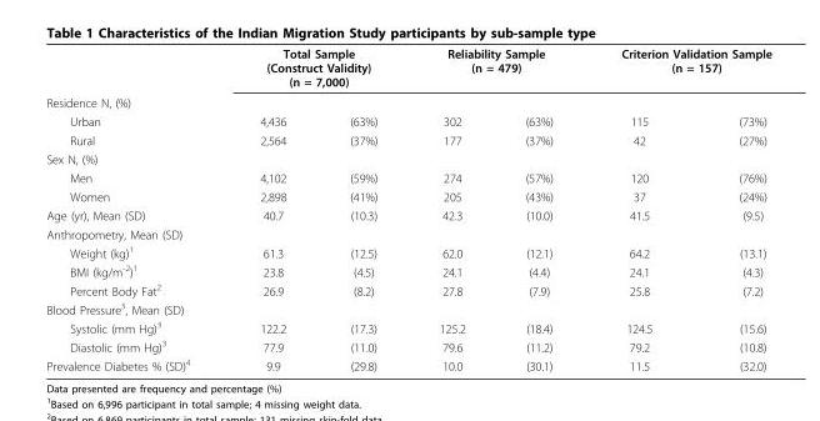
<table><thead><tr><td rowspan="2">Residence N, (%)</td><td colspan="2">Total Sample (Construct Validity) (n = 7,000)</td><td colspan="2">Reliability Sample (n = 479)</td><td colspan="2">Criterion Validation Sample (n = 157)</td></tr><tr><td></td><td></td><td></td><td></td><td></td><td></td></tr></thead><tbody><tr><td>Urban</td><td>4,436</td><td>(63%)</td><td>302</td><td>(63%)</td><td>115</td><td>(73%)</td></tr><tr><td>Rural</td><td>2,564</td><td>(37%)</td><td>177</td><td>(37%)</td><td>42</td><td>(27%)</td></tr><tr><td colspan="7">Sex N, (%)</td></tr><tr><td>Men</td><td>4,102</td><td>(59%)</td><td>274</td><td>(57%)</td><td>120</td><td>(76%)</td></tr><tr><td>Women</td><td>2,898</td><td>(41%)</td><td>205</td><td>(43%)</td><td>37</td><td>(24%)</td></tr><tr><td>Age (yr), Mean (SD)</td><td>40.7</td><td>(10.3)</td><td>42.3</td><td>(10.0)</td><td>41.5</td><td>(9.5)</td></tr><tr><td colspan="7">Anthropometry, Mean (SD)</td></tr><tr><td>Weight (kg)<sup>1</sup></td><td>61.3</td><td>(12.5)</td><td>62.0</td><td>(12.1)</td><td>64.2</td><td>(13.1)</td></tr><tr><td>BMI (kg/m<sup>-2</sup>)<sup>1</sup></td><td>23.8</td><td>(4.5)</td><td>24.1</td><td>(4.4)</td><td>24.1</td><td>(4.3)</td></tr><tr><td>Percent Body Fat<sup>2</sup></td><td>26.9</td><td>(8.2)</td><td>27.8</td><td>(7.9)</td><td>25.8</td><td>(7.2)</td></tr><tr><td colspan="7">Blood Pressure<sup>3</sup>, Mean (SD)</td></tr><tr><td>Systolic (mm Hg)<sup>3</sup></td><td>122.2</td><td>(17.3)</td><td>125.2</td><td>(18.4)</td><td>124.5</td><td>(15.6)</td></tr><tr><td>Diastolic (mm Hg)<sup>3</sup></td><td>77.9</td><td>(11.0)</td><td>79.6</td><td>(11.2)</td><td>79.2</td><td>(10.8)</td></tr><tr><td>Prevalence Diabetes % (SD)<sup>4</sup></td><td>9.9</td><td>(29.8)</td><td>10.0</td><td>(30.1)</td><td>11.5</td><td>(32.0)</td></tr></tbody></table>